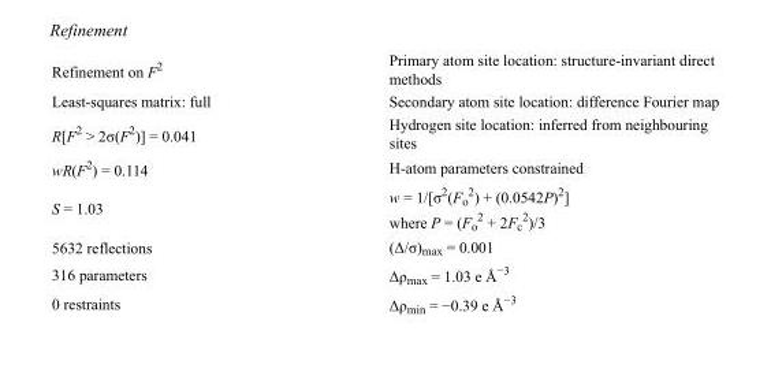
<table><tbody><tr><td>Refinement on F<sup>2</sup></td><td>Primary atom site location: structure-invariant direct methods</td></tr><tr><td>Least-squares matrix: full</td><td>Secondary atom site location: difference Fourier map</td></tr><tr><td>R[F<sup>2</sup> &gt; 2σ(F<sup>2</sup>)] = 0.041</td><td>Hydrogen site location: inferred from neighbouring sites</td></tr><tr><td>wR(F<sup>2</sup>) = 0.114</td><td>H-atom parameters constrained</td></tr><tr><td>S = 1.03</td><td>w = 1/[σ<sup>2</sup>(F<sub>o</sub> <sup>2</sup>) + (0.0542P)<sup>2</sup>] where P = (F<sub>o</sub> <sup>2</sup> + 2F<sub>c</sub> <sup>2</sup>)/3</td></tr><tr><td>5632 reflections</td><td>(Δ/σ)<sub>max</sub> = 0.001</td></tr><tr><td>316 parameters</td><td>Δρ<sub>max</sub> = 1.03 e Å<sup>−3</sup></td></tr><tr><td>0 restraints</td><td>Δρ<sub>min</sub> = −0.39 e Å<sup>−3</sup></td></tr></tbody></table>